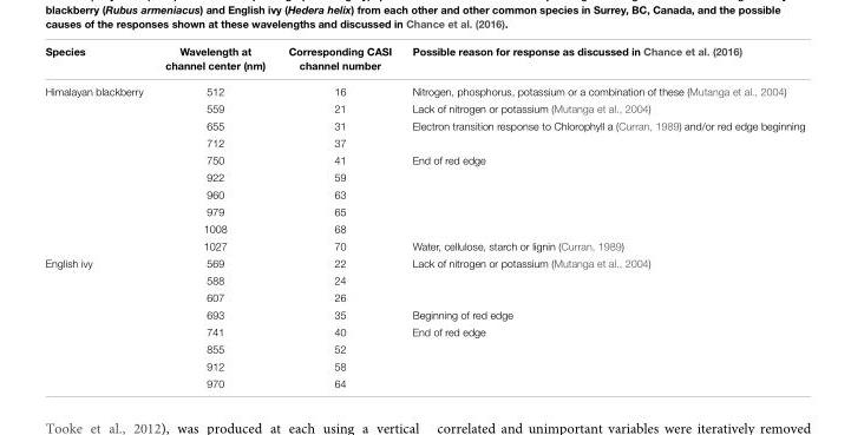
<table><thead><tr><td>Species</td><td>Wavelength at channel center (nm)</td><td>Corresponding CASI channel number</td><td>Possible reason for response as discussed in Chance et al. (2016)</td></tr></thead><tbody><tr><td rowspan="10">Himalayan blackberry</td><td>512</td><td>16</td><td>Nitrogen, phosphorus, potassium or a combination of these (Mutanga et al., 2004)</td></tr><tr><td>559</td><td>21</td><td>Lack of nitrogen or potassium (Mutanga et al., 2004)</td></tr><tr><td>655</td><td>31</td><td>Electron transition response to Chlorophyll a (Curran, 1989) and/or red edge beginning</td></tr><tr><td>712</td><td>37</td><td></td></tr><tr><td>750</td><td>41</td><td>End of red edge</td></tr><tr><td>922</td><td>59</td><td></td></tr><tr><td>960</td><td>63</td><td></td></tr><tr><td>979</td><td>65</td><td></td></tr><tr><td>1008</td><td>68</td><td></td></tr><tr><td>1027</td><td>70</td><td>Water, cellulose, starch or lignin (Curran, 1989)</td></tr><tr><td rowspan="8">English ivy</td><td>569</td><td>22</td><td>Lack of nitrogen or potassium (Mutanga et al., 2004)</td></tr><tr><td>588</td><td>24</td><td></td></tr><tr><td>607</td><td>26</td><td></td></tr><tr><td>693</td><td>35</td><td>Beginning of red edge</td></tr><tr><td>741</td><td>40</td><td>End of red edge</td></tr><tr><td>855</td><td>52</td><td></td></tr><tr><td>912</td><td>58</td><td></td></tr><tr><td>970</td><td>64</td><td></td></tr></tbody></table>